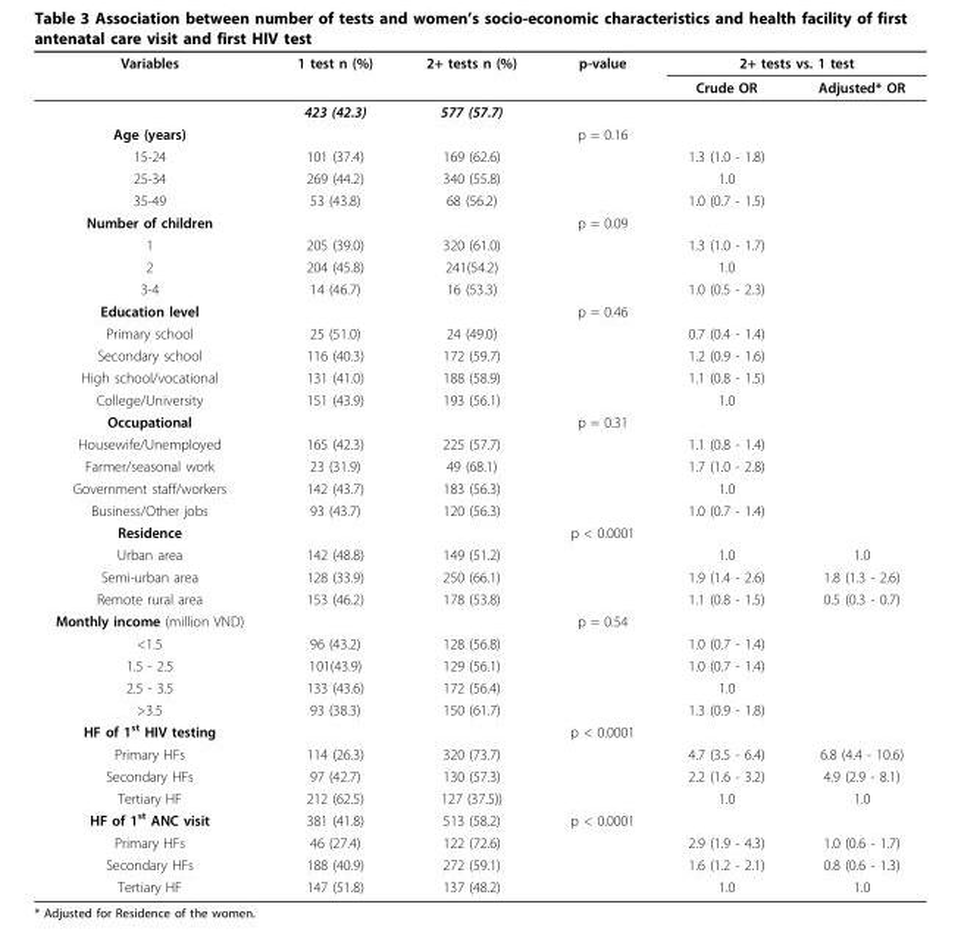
<table><thead><tr><td rowspan="2">Variables</td><td rowspan="2">1 test n (%)</td><td rowspan="2">2+ tests n (%)</td><td rowspan="2">p-value</td><td colspan="2">2+ tests vs. 1 test</td></tr><tr><td>Crude OR</td><td>Adjusted* OR</td></tr></thead><tbody><tr><td></td><td>423 (42.3)</td><td>577 (57.7)</td><td></td><td></td><td></td></tr><tr><td>Age (years)</td><td></td><td></td><td>p = 0.16</td><td></td><td></td></tr><tr><td>15-24</td><td>101 (37.4)</td><td>169 (62.6)</td><td></td><td>1.3 (1.0 - 1.8)</td><td></td></tr><tr><td>25-34</td><td>269 (44.2)</td><td>340 (55.8)</td><td></td><td>1.0</td><td></td></tr><tr><td>35-49</td><td>53 (43.8)</td><td>68 (56.2)</td><td></td><td>1.0 (0.7 - 1.5)</td><td></td></tr><tr><td>Number of children</td><td></td><td></td><td>p = 0.09</td><td></td><td></td></tr><tr><td>1</td><td>205 (39.0)</td><td>320 (61.0)</td><td></td><td>1.3 (1.0 - 1.7)</td><td></td></tr><tr><td>2</td><td>204 (45.8)</td><td>241(54.2)</td><td></td><td>1.0</td><td></td></tr><tr><td>3-4</td><td>14 (46.7)</td><td>16 (53.3)</td><td></td><td>1.0 (0.5 - 2.3)</td><td></td></tr><tr><td>Education level</td><td></td><td></td><td>p = 0.46</td><td></td><td></td></tr><tr><td>Primary school</td><td>25 (51.0)</td><td>24 (49.0)</td><td></td><td>0.7 (0.4 - 1.4)</td><td></td></tr><tr><td>Secondary school</td><td>116 (40.3)</td><td>172 (59.7)</td><td></td><td>1.2 (0.9 - 1.6)</td><td></td></tr><tr><td>High school/vocational</td><td>131 (41.0)</td><td>188 (58.9)</td><td></td><td>1.1 (0.8 - 1.5)</td><td></td></tr><tr><td>College/University</td><td>151 (43.9)</td><td>193 (56.1)</td><td></td><td>1.0</td><td></td></tr><tr><td>Occupational</td><td></td><td></td><td>p = 0.31</td><td></td><td></td></tr><tr><td>Housewife/Unemployed</td><td>165 (42.3)</td><td>225 (57.7)</td><td></td><td>1.1 (0.8 - 1.4)</td><td></td></tr><tr><td>Farmer/seasonal work</td><td>23 (31.9)</td><td>49 (68.1)</td><td></td><td>1.7 (1.0 - 2.8)</td><td></td></tr><tr><td>Government staff/workers</td><td>142 (43.7)</td><td>183 (56.3)</td><td></td><td>1.0</td><td></td></tr><tr><td>Business/Other jobs</td><td>93 (43.7)</td><td>120 (56.3)</td><td></td><td>1.0 (0.7 - 1.4)</td><td></td></tr><tr><td>Residence</td><td></td><td></td><td>p &lt; 0.0001</td><td></td><td></td></tr><tr><td>Urban area</td><td>142 (48.8)</td><td>149 (51.2)</td><td></td><td>1.0</td><td>1.0</td></tr><tr><td>Semi-urban area</td><td>128 (33.9)</td><td>250 (66.1)</td><td></td><td>1.9 (1.4 - 2.6)</td><td>1.8 (1.3 - 2.6)</td></tr><tr><td>Remote rural area</td><td>153 (46.2)</td><td>178 (53.8)</td><td></td><td>1.1 (0.8 - 1.5)</td><td>0.5 (0.3 - 0.7)</td></tr><tr><td>Monthly income (million VND)</td><td></td><td></td><td>p = 0.54</td><td></td><td></td></tr><tr><td>&lt;1.5</td><td>96 (43.2)</td><td>128 (56.8)</td><td></td><td>1.0 (0.7 - 1.4)</td><td></td></tr><tr><td>1.5 - 2.5</td><td>101(43.9)</td><td>129 (56.1)</td><td></td><td>1.0 (0.7 - 1.4)</td><td></td></tr><tr><td>2.5 - 3.5</td><td>133 (43.6)</td><td>172 (56.4)</td><td></td><td>1.0</td><td></td></tr><tr><td>&gt;3.5</td><td>93 (38.3)</td><td>150 (61.7)</td><td></td><td>1.3 (0.9 - 1.8)</td><td></td></tr><tr><td>HF of 1<sup>st</sup> HIV testing</td><td></td><td></td><td>p &lt; 0.0001</td><td></td><td></td></tr><tr><td>Primary HFs</td><td>114 (26.3)</td><td>320 (73.7)</td><td></td><td>4.7 (3.5 - 6.4)</td><td>6.8 (4.4 - 10.6)</td></tr><tr><td>Secondary HFs</td><td>97 (42.7)</td><td>130 (57.3)</td><td></td><td>2.2 (1.6 - 3.2)</td><td>4.9 (2.9 - 8.1)</td></tr><tr><td>Tertiary HF</td><td>212 (62.5)</td><td>127 (37.5))</td><td></td><td>1.0</td><td>1.0</td></tr><tr><td>HF of 1<sup>st</sup> ANC visit</td><td>381 (41.8)</td><td>513 (58.2)</td><td>p &lt; 0.0001</td><td></td><td></td></tr><tr><td>Primary HFs</td><td>46 (27.4)</td><td>122 (72.6)</td><td></td><td>2.9 (1.9 - 4.3)</td><td>1.0 (0.6 - 1.7)</td></tr><tr><td>Secondary HFs</td><td>188 (40.9)</td><td>272 (59.1)</td><td></td><td>1.6 (1.2 - 2.1)</td><td>0.8 (0.6 - 1.3)</td></tr><tr><td>Tertiary HF</td><td>147 (51.8)</td><td>137 (48.2)</td><td></td><td>1.0</td><td>1.0</td></tr></tbody></table>